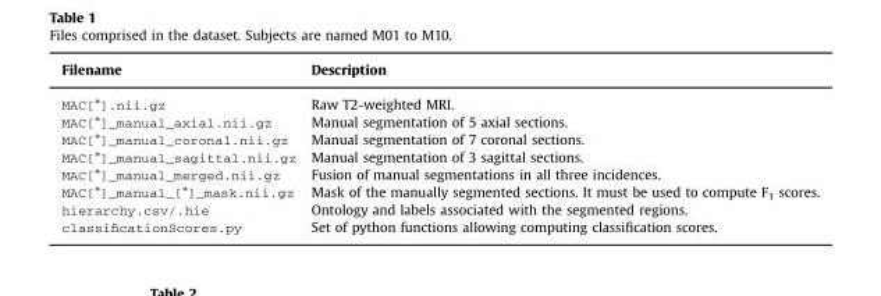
<table><thead><tr><td>Filename</td><td>Description</td></tr></thead><tbody><tr><td>MAC[*].nii.gz</td><td>Raw T2-weighted MRI.</td></tr><tr><td>MAC[*]_manual_axial.nii.gz</td><td>Manual segmentation of 5 axial sections.</td></tr><tr><td>MAC[*]_manual_coronal.nii.gz</td><td>Manual segmentation of 7 coronal sections.</td></tr><tr><td>MAC[*]_manual_sagittal.nii.gz</td><td>Manual segmentation of 3 sagittal sections.</td></tr><tr><td>MAC[*]_manual_merged.nii.gz</td><td>Fusion of manual segmentations in all three incidences.</td></tr><tr><td>MAC[*]_manual_[*]_mask.nii.gz</td><td>Mask of the manually segmented sections. It must be used to compute F<sub>1</sub> scores.</td></tr><tr><td>hierarchy.csv/.hie</td><td>Ontology and labels associated with the segmented regions.</td></tr><tr><td>classificationScores.py</td><td>Set of python functions allowing computing classification scores.</td></tr></tbody></table>